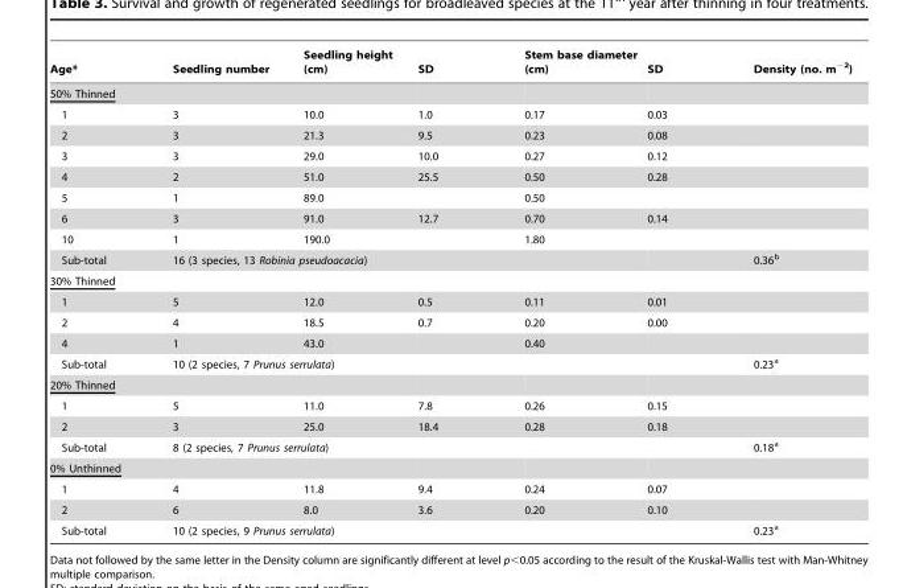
<table><thead><tr><td>Age*</td><td>Seedling number</td><td>Seedling height (cm)</td><td>SD</td><td>Stem base diameter (cm)</td><td>SD</td><td>Density (no. m<sup>−2</sup>)</td></tr></thead><tbody><tr><td colspan="7">50% Thinned</td></tr><tr><td>1</td><td>3</td><td>10.0</td><td>1.0</td><td>0.17</td><td>0.03</td><td></td></tr><tr><td>2</td><td>3</td><td>21.3</td><td>9.5</td><td>0.23</td><td>0.08</td><td></td></tr><tr><td>3</td><td>3</td><td>29.0</td><td>10.0</td><td>0.27</td><td>0.12</td><td></td></tr><tr><td>4</td><td>2</td><td>51.0</td><td>25.5</td><td>0.50</td><td>0.28</td><td></td></tr><tr><td>5</td><td>1</td><td>89.0</td><td></td><td>0.50</td><td></td><td></td></tr><tr><td>6</td><td>3</td><td>91.0</td><td>12.7</td><td>0.70</td><td>0.14</td><td></td></tr><tr><td>10</td><td>1</td><td>190.0</td><td></td><td>1.80</td><td></td><td></td></tr><tr><td>Sub-total</td><td colspan="4">16 (3 species, 13 Robinia pseudoacacia)</td><td></td><td>0.36<sup>b</sup></td></tr><tr><td colspan="7">30% Thinned</td></tr><tr><td>1</td><td>5</td><td>12.0</td><td>0.5</td><td>0.11</td><td>0.01</td><td></td></tr><tr><td>2</td><td>4</td><td>18.5</td><td>0.7</td><td>0.20</td><td>0.00</td><td></td></tr><tr><td>4</td><td>1</td><td>43.0</td><td></td><td>0.40</td><td></td><td></td></tr><tr><td>Sub-total</td><td colspan="4">10 (2 species, 7 Prunus serrulata)</td><td></td><td>0.23<sup>a</sup></td></tr><tr><td colspan="7">20% Thinned</td></tr><tr><td>1</td><td>5</td><td>11.0</td><td>7.8</td><td>0.26</td><td>0.15</td><td></td></tr><tr><td>2</td><td>3</td><td>25.0</td><td>18.4</td><td>0.28</td><td>0.18</td><td></td></tr><tr><td>Sub-total</td><td colspan="4">8 (2 species, 7 Prunus serrulata)</td><td></td><td>0.18<sup>a</sup></td></tr><tr><td colspan="7">0% Unthinned</td></tr><tr><td>1</td><td>4</td><td>11.8</td><td>9.4</td><td>0.24</td><td>0.07</td><td></td></tr><tr><td>2</td><td>6</td><td>8.0</td><td>3.6</td><td>0.20</td><td>0.10</td><td></td></tr><tr><td>Sub-total</td><td colspan="4">10 (2 species, 9 Prunus serrulata)</td><td></td><td>0.23<sup>a</sup></td></tr></tbody></table>